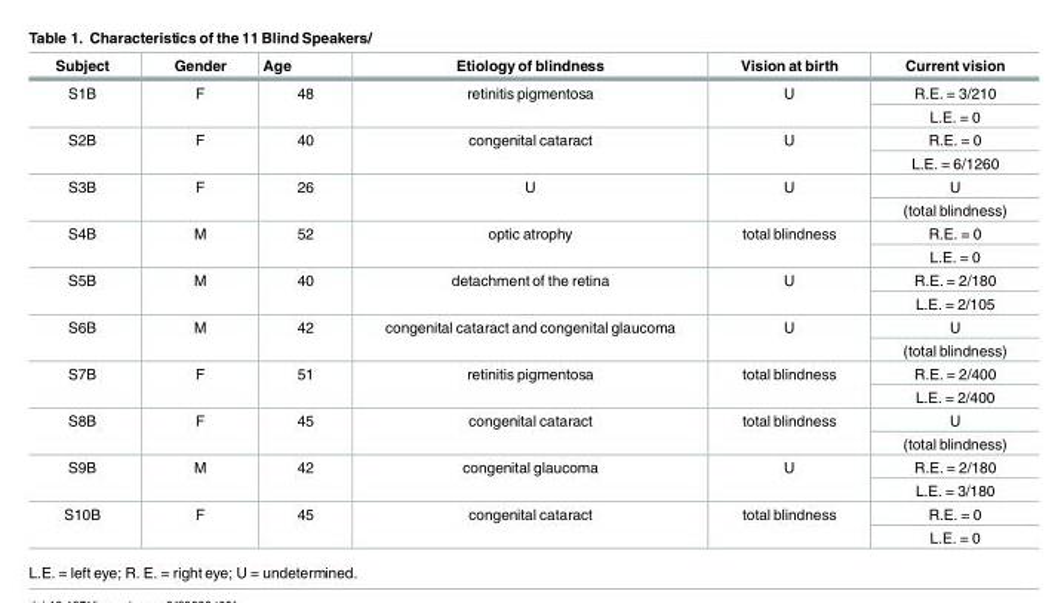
<table><thead><tr><td>Subject</td><td>Gender</td><td>Age</td><td>Etiology of blindness</td><td>Vision at birth</td><td>Current vision</td></tr></thead><tbody><tr><td rowspan="2">S1B</td><td rowspan="2">F</td><td rowspan="2">48</td><td rowspan="2">retinitis pigmentosa</td><td rowspan="2">U</td><td>R.E. = 3/210</td></tr><tr><td>L.E. = 0</td></tr><tr><td rowspan="2">S2B</td><td rowspan="2">F</td><td rowspan="2">40</td><td rowspan="2">congenital cataract</td><td rowspan="2">U</td><td>R.E. = 0</td></tr><tr><td>L.E. = 6/1260</td></tr><tr><td rowspan="2">S3B</td><td rowspan="2">F</td><td rowspan="2">26</td><td rowspan="2">U</td><td rowspan="2">U</td><td>U</td></tr><tr><td>(total blindness)</td></tr><tr><td rowspan="2">S4B</td><td rowspan="2">M</td><td rowspan="2">52</td><td rowspan="2">optic atrophy</td><td rowspan="2">total blindness</td><td>R.E. = 0</td></tr><tr><td>L.E. = 0</td></tr><tr><td rowspan="2">S5B</td><td rowspan="2">M</td><td rowspan="2">40</td><td rowspan="2">detachment of the retina</td><td rowspan="2">U</td><td>R.E. = 2/180</td></tr><tr><td>L.E. = 2/105</td></tr><tr><td rowspan="2">S6B</td><td rowspan="2">M</td><td rowspan="2">42</td><td rowspan="2">congenital cataract and congenital glaucoma</td><td rowspan="2">U</td><td>U</td></tr><tr><td>(total blindness)</td></tr><tr><td rowspan="2">S7B</td><td rowspan="2">F</td><td rowspan="2">51</td><td rowspan="2">retinitis pigmentosa</td><td rowspan="2">total blindness</td><td>R.E. = 2/400</td></tr><tr><td>L.E. = 2/400</td></tr><tr><td rowspan="2">S8B</td><td rowspan="2">F</td><td rowspan="2">45</td><td rowspan="2">congenital cataract</td><td rowspan="2">total blindness</td><td>U</td></tr><tr><td>(total blindness)</td></tr><tr><td rowspan="2">S9B</td><td rowspan="2">M</td><td rowspan="2">42</td><td rowspan="2">congenital glaucoma</td><td rowspan="2">U</td><td>R.E. = 2/180</td></tr><tr><td>L.E. = 3/180</td></tr><tr><td rowspan="2">S10B</td><td rowspan="2">F</td><td rowspan="2">45</td><td rowspan="2">congenital cataract</td><td rowspan="2">total blindness</td><td>R.E. = 0</td></tr><tr><td>L.E. = 0</td></tr></tbody></table>